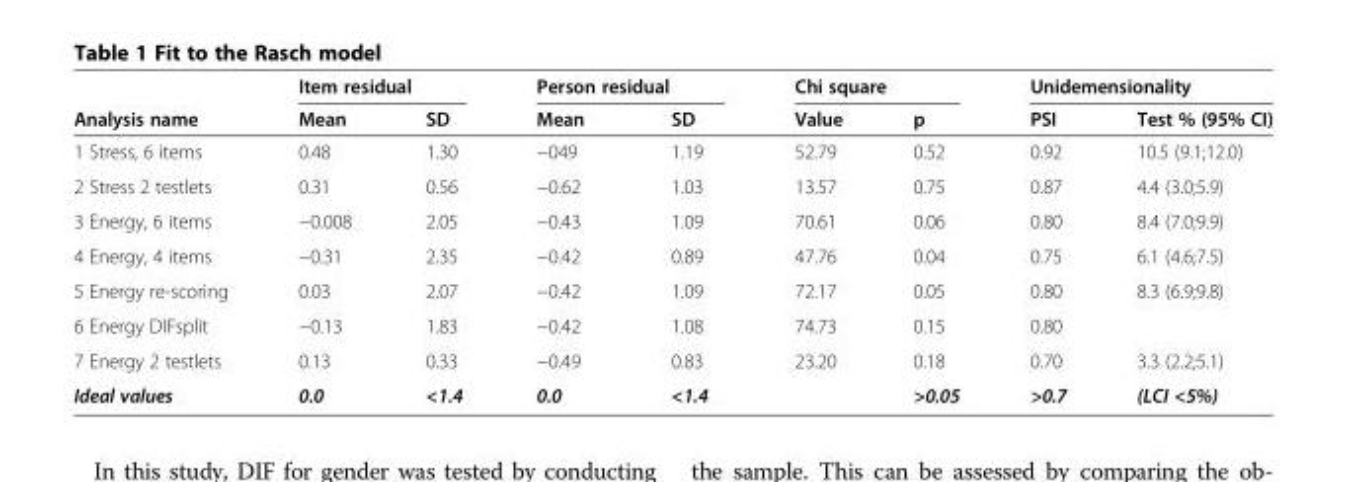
<table><thead><tr><td rowspan="2">Analysis name</td><td colspan="2">Item residual</td><td colspan="2">Person residual</td><td colspan="2">Chi square</td><td colspan="2">Unidemensionality</td></tr><tr><td>Mean</td><td>SD</td><td>Mean</td><td>SD</td><td>Value</td><td>p</td><td>PSI</td><td>Test % (95% CI)</td></tr></thead><tbody><tr><td>1 Stress, 6 items</td><td>0.48</td><td>1.30</td><td>−049</td><td>1.19</td><td>52.79</td><td>0.52</td><td>0.92</td><td>10.5 (9.1;12.0)</td></tr><tr><td>2 Stress 2 testlets</td><td>0.31</td><td>0.56</td><td>−0.62</td><td>1.03</td><td>13.57</td><td>0.75</td><td>0.87</td><td>4.4 (3.0;5.9)</td></tr><tr><td>3 Energy, 6 items</td><td>−0.008</td><td>2.05</td><td>−0.43</td><td>1.09</td><td>70.61</td><td>0.06</td><td>0.80</td><td>8.4 (7.0;9.9)</td></tr><tr><td>4 Energy, 4 items</td><td>−0.31</td><td>2.35</td><td>−0.42</td><td>0.89</td><td>47.76</td><td>0.04</td><td>0.75</td><td>6.1 (4.6;7.5)</td></tr><tr><td>5 Energy re-scoring</td><td>0.03</td><td>2.07</td><td>−0.42</td><td>1.09</td><td>72.17</td><td>0.05</td><td>0.80</td><td>8.3 (6.9;9.8)</td></tr><tr><td>6 Energy DIFsplit</td><td>−0.13</td><td>1.83</td><td>−0.42</td><td>1.08</td><td>74.73</td><td>0.15</td><td>0.80</td><td></td></tr><tr><td>7 Energy 2 testlets</td><td>0.13</td><td>0.33</td><td>−0.49</td><td>0.83</td><td>23.20</td><td>0.18</td><td>0.70</td><td>3.3 (2.2;5.1)</td></tr><tr><td>Ideal values</td><td>0.0</td><td>&lt;1.4</td><td>0.0</td><td>&lt;1.4</td><td></td><td>&gt;0.05</td><td>&gt;0.7</td><td>(LCI &lt;5%)</td></tr></tbody></table>